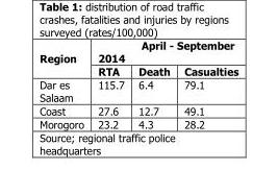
<table><thead><tr><td rowspan="2">Region</td><td colspan="3">April - September 2014</td></tr><tr><td>RTA</td><td>Death</td><td>Casualties</td></tr></thead><tbody><tr><td>Dar es Salaam</td><td>115.7</td><td>6.4</td><td>79.1</td></tr><tr><td>Coast</td><td>27.6</td><td>12.7</td><td>49.1</td></tr><tr><td>Morogoro</td><td>23.2</td><td>4.3</td><td>28.2</td></tr></tbody></table>